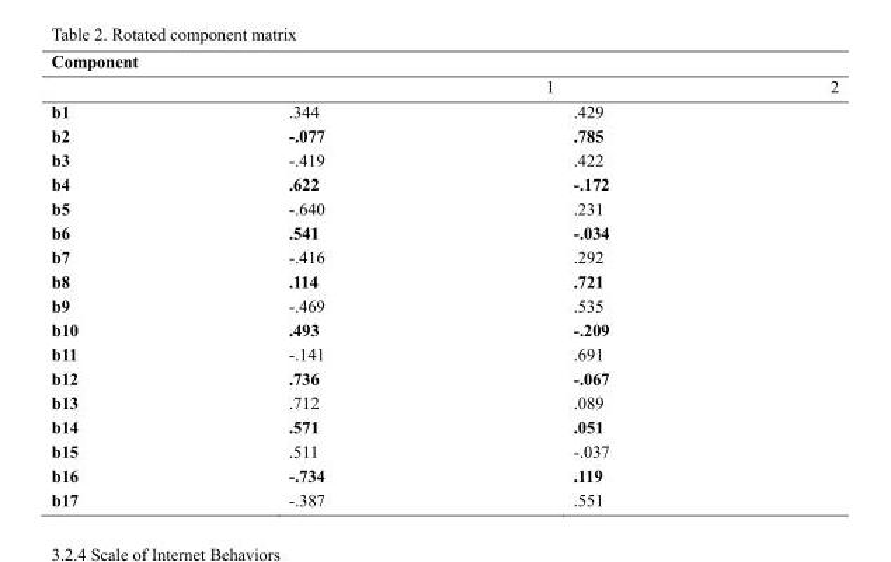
<table><thead><tr><td colspan="3">Component</td></tr><tr><td></td><td>1</td><td>2</td></tr></thead><tbody><tr><td>b1</td><td>.344</td><td>.429</td></tr><tr><td>b2</td><td>-.077</td><td>.785</td></tr><tr><td>b3</td><td>-.419</td><td>.422</td></tr><tr><td>b4</td><td>.622</td><td>-.172</td></tr><tr><td>b5</td><td>-.640</td><td>.231</td></tr><tr><td>b6</td><td>.541</td><td>-.034</td></tr><tr><td>b7</td><td>-.416</td><td>.292</td></tr><tr><td>b8</td><td>.114</td><td>.721</td></tr><tr><td>b9</td><td>-.469</td><td>.535</td></tr><tr><td>b10</td><td>.493</td><td>-.209</td></tr><tr><td>b11</td><td>-.141</td><td>.691</td></tr><tr><td>b12</td><td>.736</td><td>-.067</td></tr><tr><td>b13</td><td>.712</td><td>.089</td></tr><tr><td>b14</td><td>.571</td><td>.051</td></tr><tr><td>b15</td><td>.511</td><td>-.037</td></tr><tr><td>b16</td><td>-.734</td><td>.119</td></tr><tr><td>b17</td><td>-.387</td><td>.551</td></tr></tbody></table>